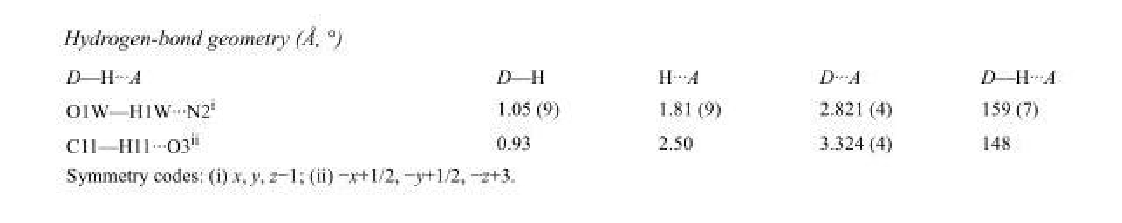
<table><tbody><tr><td>D—H···A</td><td>D—H</td><td>H···A</td><td>D···A</td><td>D—H···A</td></tr><tr><td>O1W—H1W···N2<sup>i</sup></td><td>1.05 (9)</td><td>1.81 (9)</td><td>2.821 (4)</td><td>159 (7)</td></tr><tr><td>C11—H11···O3<sup>ii</sup></td><td>0.93</td><td>2.50</td><td>3.324 (4)</td><td>148</td></tr></tbody></table>